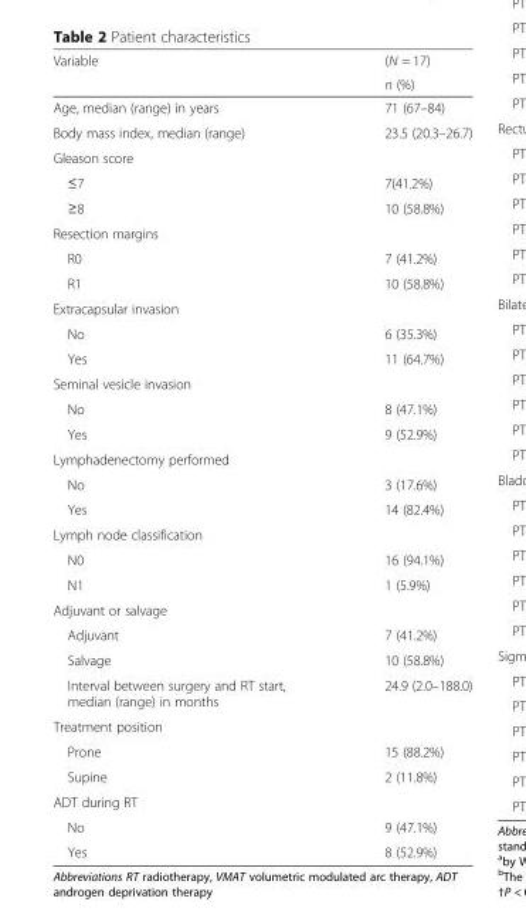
<table><thead><tr><td rowspan="2">Variable</td><td rowspan="2">(N = 17) n (%)</td></tr><tr></tr></thead><tbody><tr><td>Age, median (range) in years</td><td>71 (67–84)</td></tr><tr><td>Body mass index, median (range)</td><td>23.5 (20.3–26.7)</td></tr><tr><td colspan="2">Gleason score</td></tr><tr><td>≤7</td><td>7(41.2%)</td></tr><tr><td>≥8</td><td>10 (58.8%)</td></tr><tr><td colspan="2">Resection margins</td></tr><tr><td>R0</td><td>7 (41.2%)</td></tr><tr><td>R1</td><td>10 (58.8%)</td></tr><tr><td colspan="2">Extracapsular invasion</td></tr><tr><td>No</td><td>6 (35.3%)</td></tr><tr><td>Yes</td><td>11 (64.7%)</td></tr><tr><td colspan="2">Seminal vesicle invasion</td></tr><tr><td>No</td><td>8 (47.1%)</td></tr><tr><td>Yes</td><td>9 (52.9%)</td></tr><tr><td colspan="2">Lymphadenectomy performed</td></tr><tr><td>No</td><td>3 (17.6%)</td></tr><tr><td>Yes</td><td>14 (82.4%)</td></tr><tr><td colspan="2">Lymph node classification</td></tr><tr><td>N0</td><td>16 (94.1%)</td></tr><tr><td>N1</td><td>1 (5.9%)</td></tr><tr><td colspan="2">Adjuvant or salvage</td></tr><tr><td>Adjuvant</td><td>7 (41.2%)</td></tr><tr><td>Salvage</td><td>10 (58.8%)</td></tr><tr><td>Interval between surgery and RT start, median (range) in months</td><td>24.9 (2.0–188.0)</td></tr><tr><td colspan="2">Treatment position</td></tr><tr><td>Prone</td><td>15 (88.2%)</td></tr><tr><td>Supine</td><td>2 (11.8%)</td></tr><tr><td colspan="2">ADT during RT</td></tr><tr><td>No</td><td>9 (47.1%)</td></tr><tr><td>Yes</td><td>8 (52.9%)</td></tr></tbody></table>